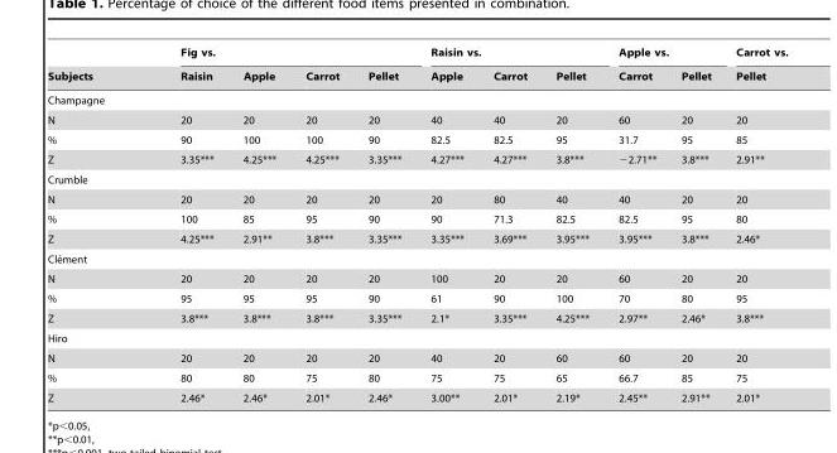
<table><thead><tr><td rowspan="2">Subjects</td><td colspan="4">Fig vs.</td><td colspan="3">Raisin vs.</td><td colspan="2">Apple vs.</td><td rowspan="2">Carrot vs. Pellet</td></tr><tr><td>Raisin</td><td>Apple</td><td>Carrot</td><td>Pellet</td><td>Apple</td><td>Carrot</td><td>Pellet</td><td>Carrot</td><td>Pellet</td></tr></thead><tbody><tr><td colspan="11">Champagne</td></tr><tr><td>N</td><td>20</td><td>20</td><td>20</td><td>20</td><td>40</td><td>40</td><td>20</td><td>60</td><td>20</td><td>20</td></tr><tr><td>%</td><td>90</td><td>100</td><td>100</td><td>90</td><td>82.5</td><td>82.5</td><td>95</td><td>31.7</td><td>95</td><td>85</td></tr><tr><td>Z</td><td>3.35***</td><td>4.25***</td><td>4.25***</td><td>3.35***</td><td>4.27***</td><td>4.27***</td><td>3.8***</td><td>−2.71**</td><td>3.8***</td><td>2.91**</td></tr><tr><td colspan="11">Crumble</td></tr><tr><td>N</td><td>20</td><td>20</td><td>20</td><td>20</td><td>20</td><td>80</td><td>40</td><td>40</td><td>20</td><td>20</td></tr><tr><td>%</td><td>100</td><td>85</td><td>95</td><td>90</td><td>90</td><td>71.3</td><td>82.5</td><td>82.5</td><td>95</td><td>80</td></tr><tr><td>Z</td><td>4.25***</td><td>2.91**</td><td>3.8***</td><td>3.35***</td><td>3.35***</td><td>3.69***</td><td>3.95***</td><td>3.95***</td><td>3.8***</td><td>2.46*</td></tr><tr><td colspan="11">Cle´ment</td></tr><tr><td>N</td><td>20</td><td>20</td><td>20</td><td>20</td><td>100</td><td>20</td><td>20</td><td>60</td><td>20</td><td>20</td></tr><tr><td>%</td><td>95</td><td>95</td><td>95</td><td>90</td><td>61</td><td>90</td><td>100</td><td>70</td><td>80</td><td>95</td></tr><tr><td>Z</td><td>3.8***</td><td>3.8***</td><td>3.8***</td><td>3.35***</td><td>2.1*</td><td>3.35***</td><td>4.25***</td><td>2.97**</td><td>2.46*</td><td>3.8***</td></tr><tr><td colspan="11">Hiro</td></tr><tr><td>N</td><td>20</td><td>20</td><td>20</td><td>20</td><td>40</td><td>20</td><td>60</td><td>60</td><td>20</td><td>20</td></tr><tr><td>%</td><td>80</td><td>80</td><td>75</td><td>80</td><td>75</td><td>75</td><td>65</td><td>66.7</td><td>85</td><td>75</td></tr><tr><td>Z</td><td>2.46*</td><td>2.46*</td><td>2.01*</td><td>2.46*</td><td>3.00**</td><td>2.01*</td><td>2.19*</td><td>2.45**</td><td>2.91**</td><td>2.01*</td></tr></tbody></table>